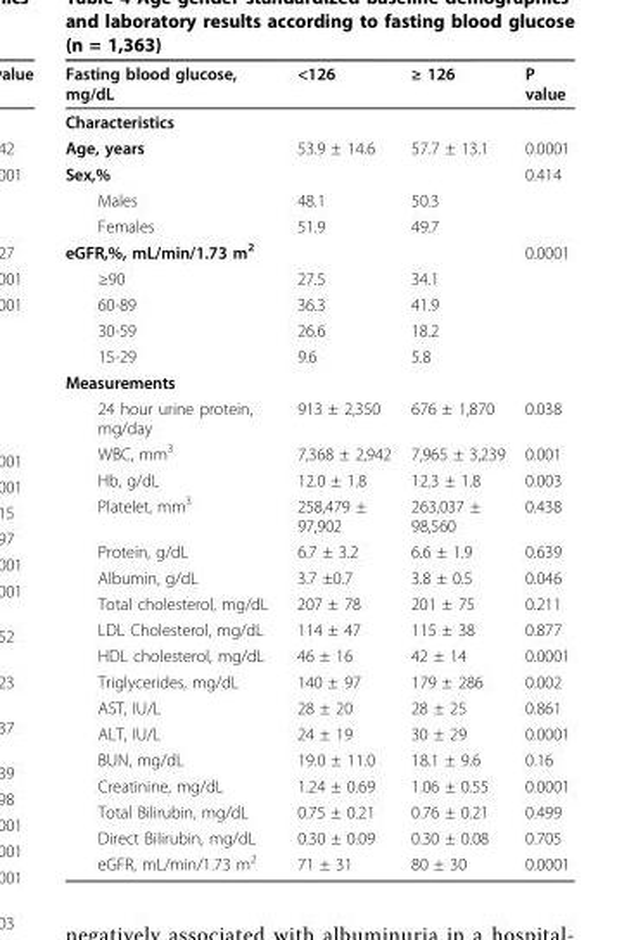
<table><thead><tr><td>Fasting blood glucose, mg/dL</td><td>&lt;126</td><td>≥ 126</td><td>P value</td></tr></thead><tbody><tr><td colspan="4">Characteristics</td></tr><tr><td>Age, years</td><td>53.9 ± 14.6</td><td>57.7 ± 13.1</td><td>0.0001</td></tr><tr><td colspan="3">Sex,%</td><td>0.414</td></tr><tr><td>Males</td><td>48.1</td><td>50.3</td><td></td></tr><tr><td>Females</td><td>51.9</td><td>49.7</td><td></td></tr><tr><td colspan="3">eGFR,%, mL/min/1.73 m<sup>2</sup></td><td>0.0001</td></tr><tr><td>≥90</td><td>27.5</td><td>34.1</td><td></td></tr><tr><td>60-89</td><td>36.3</td><td>41.9</td><td></td></tr><tr><td>30-59</td><td>26.6</td><td>18.2</td><td></td></tr><tr><td>15-29</td><td>9.6</td><td>5.8</td><td></td></tr><tr><td colspan="4">Measurements</td></tr><tr><td>24 hour urine protein, mg/day</td><td>913 ± 2,350</td><td>676 ± 1,870</td><td>0.038</td></tr><tr><td>WBC, mm<sup>3</sup></td><td>7,368 ± 2,942</td><td>7,965 ± 3,239</td><td>0.001</td></tr><tr><td>Hb, g/dL</td><td>12.0 ± 1.8</td><td>12.3 ± 1.8</td><td>0.003</td></tr><tr><td>Platelet, mm<sup>3</sup></td><td>258,479 ± 97,902</td><td>263,037 ± 98,560</td><td>0.438</td></tr><tr><td>Protein, g/dL</td><td>6.7 ± 3.2</td><td>6.6 ± 1.9</td><td>0.639</td></tr><tr><td>Albumin, g/dL</td><td>3.7 ±0.7</td><td>3.8 ± 0.5</td><td>0.046</td></tr><tr><td>Total cholesterol, mg/dL</td><td>207 ± 78</td><td>201 ± 75</td><td>0.211</td></tr><tr><td>LDL Cholesterol, mg/dL</td><td>114 ± 47</td><td>115 ± 38</td><td>0.877</td></tr><tr><td>HDL cholesterol, mg/dL</td><td>46 ± 16</td><td>42 ± 14</td><td>0.0001</td></tr><tr><td>Triglycerides, mg/dL</td><td>140 ± 97</td><td>179 ± 286</td><td>0.002</td></tr><tr><td>AST, IU/L</td><td>28 ± 20</td><td>28 ± 25</td><td>0.861</td></tr><tr><td>ALT, IU/L</td><td>24 ± 19</td><td>30 ± 29</td><td>0.0001</td></tr><tr><td>BUN, mg/dL</td><td>19.0 ± 11.0</td><td>18.1 ± 9.6</td><td>0.16</td></tr><tr><td>Creatinine, mg/dL</td><td>1.24 ± 0.69</td><td>1.06 ± 0.55</td><td>0.0001</td></tr><tr><td>Total Bilirubin, mg/dL</td><td>0.75 ± 0.21</td><td>0.76 ± 0.21</td><td>0.499</td></tr><tr><td>Direct Bilirubin, mg/dL</td><td>0.30 ± 0.09</td><td>0.30 ± 0.08</td><td>0.705</td></tr><tr><td>eGFR, mL/min/1.73 m<sup>2</sup></td><td>71 ± 31</td><td>80 ± 30</td><td>0.0001</td></tr></tbody></table>